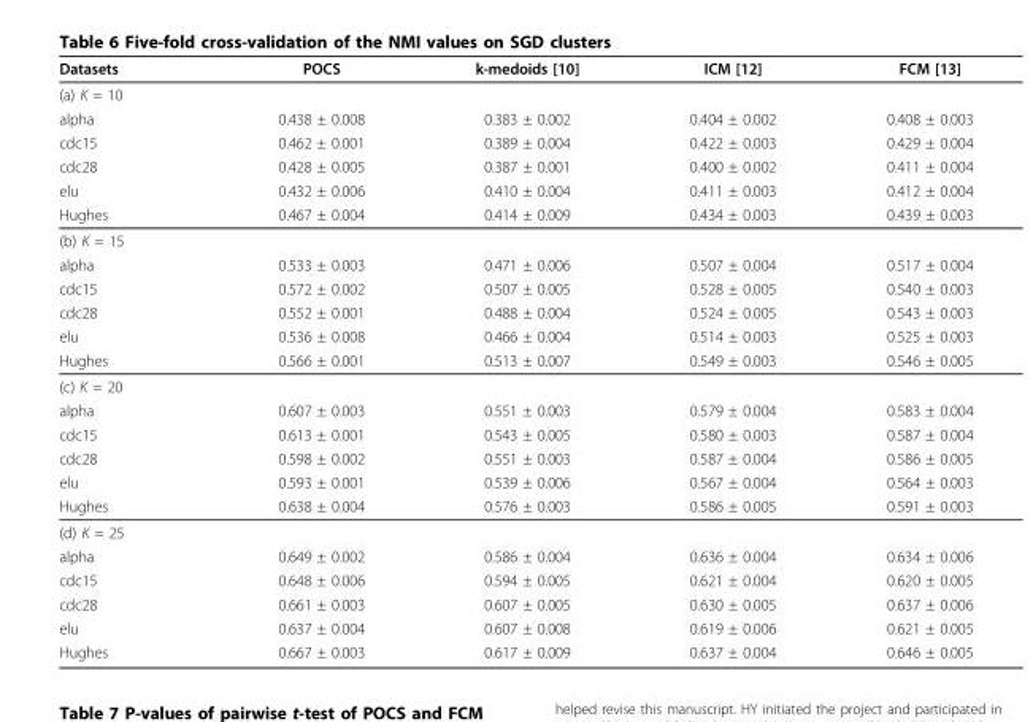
<table><thead><tr><td>Datasets</td><td>POCS</td><td>k-medoids [10]</td><td>ICM [12]</td><td>FCM [13]</td></tr></thead><tbody><tr><td colspan="5">(a) K = 10</td></tr><tr><td>alpha</td><td>0.438 ± 0.008</td><td>0.383 ± 0.002</td><td>0.404 ± 0.002</td><td>0.408 ± 0.003</td></tr><tr><td>cdc15</td><td>0.462 ± 0.001</td><td>0.389 ± 0.004</td><td>0.422 ± 0.003</td><td>0.429 ± 0.004</td></tr><tr><td>cdc28</td><td>0.428 ± 0.005</td><td>0.387 ± 0.001</td><td>0.400 ± 0.002</td><td>0.411 ± 0.004</td></tr><tr><td>elu</td><td>0.432 ± 0.006</td><td>0.410 ± 0.004</td><td>0.411 ± 0.003</td><td>0.412 ± 0.004</td></tr><tr><td>Hughes</td><td>0.467 ± 0.004</td><td>0.414 ± 0.009</td><td>0.434 ± 0.003</td><td>0.439 ± 0.003</td></tr><tr><td colspan="5">(b) K = 15</td></tr><tr><td>alpha</td><td>0.533 ± 0.003</td><td>0.471 ± 0.006</td><td>0.507 ± 0.004</td><td>0.517 ± 0.004</td></tr><tr><td>cdc15</td><td>0.572 ± 0.002</td><td>0.507 ± 0.005</td><td>0.528 ± 0.005</td><td>0.540 ± 0.003</td></tr><tr><td>cdc28</td><td>0.552 ± 0.001</td><td>0.488 ± 0.004</td><td>0.524 ± 0.005</td><td>0.543 ± 0.003</td></tr><tr><td>elu</td><td>0.536 ± 0.008</td><td>0.466 ± 0.004</td><td>0.514 ± 0.003</td><td>0.525 ± 0.003</td></tr><tr><td>Hughes</td><td>0.566 ± 0.001</td><td>0.513 ± 0.007</td><td>0.549 ± 0.003</td><td>0.546 ± 0.005</td></tr><tr><td colspan="5">(c) K = 20</td></tr><tr><td>alpha</td><td>0.607 ± 0.003</td><td>0.551 ± 0.003</td><td>0.579 ± 0.004</td><td>0.583 ± 0.004</td></tr><tr><td>cdc15</td><td>0.613 ± 0.001</td><td>0.543 ± 0.005</td><td>0.580 ± 0.003</td><td>0.587 ± 0.004</td></tr><tr><td>cdc28</td><td>0.598 ± 0.002</td><td>0.551 ± 0.003</td><td>0.587 ± 0.004</td><td>0.586 ± 0.005</td></tr><tr><td>elu</td><td>0.593 ± 0.001</td><td>0.539 ± 0.006</td><td>0.567 ± 0.004</td><td>0.564 ± 0.003</td></tr><tr><td>Hughes</td><td>0.638 ± 0.004</td><td>0.576 ± 0.003</td><td>0.586 ± 0.005</td><td>0.591 ± 0.003</td></tr><tr><td colspan="5">(d) K = 25</td></tr><tr><td>alpha</td><td>0.649 ± 0.002</td><td>0.586 ± 0.004</td><td>0.636 ± 0.004</td><td>0.634 ± 0.006</td></tr><tr><td>cdc15</td><td>0.648 ± 0.006</td><td>0.594 ± 0.005</td><td>0.621 ± 0.004</td><td>0.620 ± 0.005</td></tr><tr><td>cdc28</td><td>0.661 ± 0.003</td><td>0.607 ± 0.005</td><td>0.630 ± 0.005</td><td>0.637 ± 0.006</td></tr><tr><td>elu</td><td>0.637 ± 0.004</td><td>0.607 ± 0.008</td><td>0.619 ± 0.006</td><td>0.621 ± 0.005</td></tr><tr><td>Hughes</td><td>0.667 ± 0.003</td><td>0.617 ± 0.009</td><td>0.637 ± 0.004</td><td>0.646 ± 0.005</td></tr></tbody></table>